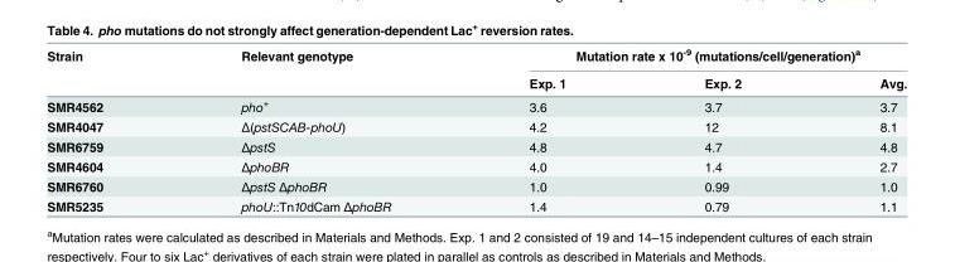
<table><thead><tr><td rowspan="2">Strain</td><td rowspan="2">Relevant genotype</td><td colspan="3">Mutation rate x 10<sup>-9</sup> (mutations/cell/generation)<sup>a</sup></td></tr><tr><td>Exp. 1</td><td>Exp. 2</td><td>Avg.</td></tr></thead><tbody><tr><td>SMR4562</td><td>pho<sup>+</sup></td><td>3.6</td><td>3.7</td><td>3.7</td></tr><tr><td>SMR4047</td><td>Δ(pstSCAB-phoU)</td><td>4.2</td><td>12</td><td>8.1</td></tr><tr><td>SMR6759</td><td>ΔpstS</td><td>4.8</td><td>4.7</td><td>4.8</td></tr><tr><td>SMR4604</td><td>ΔphoBR</td><td>4.0</td><td>1.4</td><td>2.7</td></tr><tr><td>SMR6760</td><td>ΔpstS ΔphoBR</td><td>1.0</td><td>0.99</td><td>1.0</td></tr><tr><td>SMR5235</td><td>phoU::Tn10dCam ΔphoBR</td><td>1.4</td><td>0.79</td><td>1.1</td></tr></tbody></table>